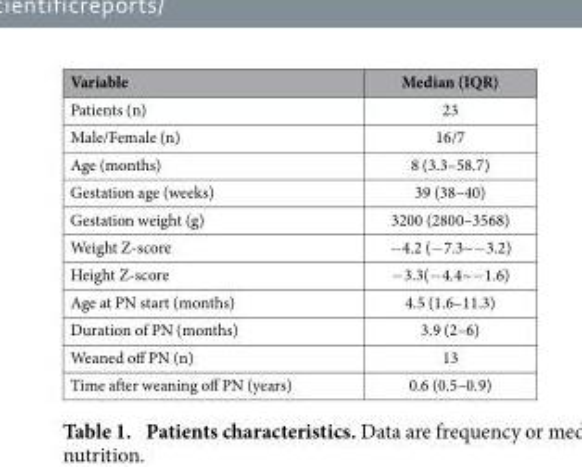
<table><thead><tr><td>Variable</td><td>Median (IQR)</td></tr></thead><tbody><tr><td>Patients (n)</td><td>23</td></tr><tr><td>Male/Female (n)</td><td>16/7</td></tr><tr><td>Age (months)</td><td>8 (3.3–58.7)</td></tr><tr><td>Gestation age (weeks)</td><td>39 (38–40)</td></tr><tr><td>Gestation weight (g)</td><td>3200 (2800–3568)</td></tr><tr><td>Weight Z-score</td><td>− 4.2 (− 7.3~− 3.2)</td></tr><tr><td>Height Z-score</td><td>− 3.3(− 4.4~− 1.6)</td></tr><tr><td>Age at PN start (months)</td><td>4.5 (1.6–11.3)</td></tr><tr><td>Duration of PN (months)</td><td>3.9 (2–6)</td></tr><tr><td>Weaned off PN (n)</td><td>13</td></tr><tr><td>Time after weaning off PN (years)</td><td>0.6 (0.5–0.9)</td></tr></tbody></table>